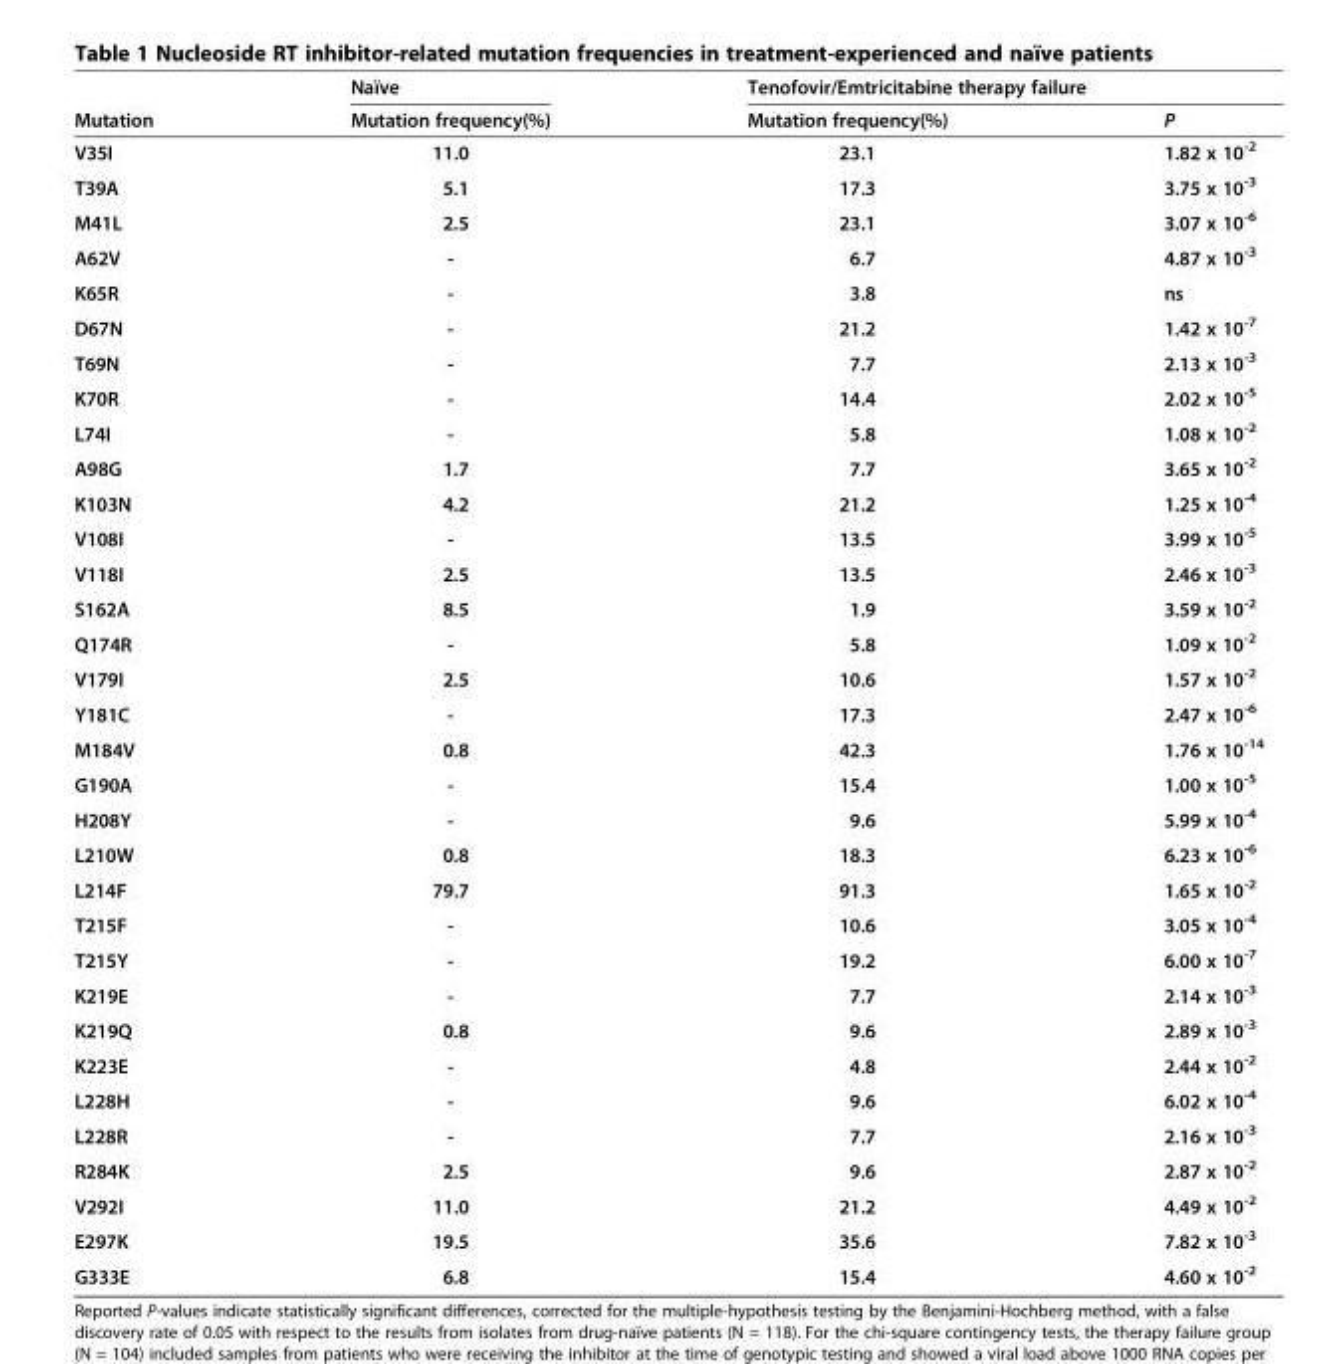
<table><thead><tr><td rowspan="2">Mutation</td><td rowspan="2">Naïve Mutation frequency(%)</td><td colspan="2">Tenofovir/Emtricitabine therapy failure</td></tr><tr><td>Mutation frequency(%)</td><td>P</td></tr></thead><tbody><tr><td>V35I</td><td>11.0</td><td>23.1</td><td>1.82 x 10<sup>-2</sup></td></tr><tr><td>T39A</td><td>5.1</td><td>17.3</td><td>3.75 x 10<sup>-3</sup></td></tr><tr><td>M41L</td><td>2.5</td><td>23.1</td><td>3.07 x 10<sup>-6</sup></td></tr><tr><td>A62V</td><td>-</td><td>6.7</td><td>4.87 x 10<sup>-3</sup></td></tr><tr><td>K65R</td><td>-</td><td>3.8</td><td>ns</td></tr><tr><td>D67N</td><td>-</td><td>21.2</td><td>1.42 x 10<sup>-7</sup></td></tr><tr><td>T69N</td><td>-</td><td>7.7</td><td>2.13 x 10<sup>-3</sup></td></tr><tr><td>K70R</td><td>-</td><td>14.4</td><td>2.02 x 10<sup>-5</sup></td></tr><tr><td>L74I</td><td>-</td><td>5.8</td><td>1.08 x 10<sup>-2</sup></td></tr><tr><td>A98G</td><td>1.7</td><td>7.7</td><td>3.65 x 10<sup>-2</sup></td></tr><tr><td>K103N</td><td>4.2</td><td>21.2</td><td>1.25 x 10<sup>-4</sup></td></tr><tr><td>V108I</td><td>-</td><td>13.5</td><td>3.99 x 10<sup>-5</sup></td></tr><tr><td>V118I</td><td>2.5</td><td>13.5</td><td>2.46 x 10<sup>-3</sup></td></tr><tr><td>S162A</td><td>8.5</td><td>1.9</td><td>3.59 x 10<sup>-2</sup></td></tr><tr><td>Q174R</td><td>-</td><td>5.8</td><td>1.09 x 10<sup>-2</sup></td></tr><tr><td>V179I</td><td>2.5</td><td>10.6</td><td>1.57 x 10<sup>-2</sup></td></tr><tr><td>Y181C</td><td>-</td><td>17.3</td><td>2.47 x 10<sup>-6</sup></td></tr><tr><td>M184V</td><td>0.8</td><td>42.3</td><td>1.76 x 10<sup>-14</sup></td></tr><tr><td>G190A</td><td>-</td><td>15.4</td><td>1.00 x 10<sup>-5</sup></td></tr><tr><td>H208Y</td><td>-</td><td>9.6</td><td>5.99 x 10<sup>-4</sup></td></tr><tr><td>L210W</td><td>0.8</td><td>18.3</td><td>6.23 x 10<sup>-6</sup></td></tr><tr><td>L214F</td><td>79.7</td><td>91.3</td><td>1.65 x 10<sup>-2</sup></td></tr><tr><td>T215F</td><td>-</td><td>10.6</td><td>3.05 x 10<sup>-4</sup></td></tr><tr><td>T215Y</td><td>-</td><td>19.2</td><td>6.00 x 10<sup>-7</sup></td></tr><tr><td>K219E</td><td>-</td><td>7.7</td><td>2.14 x 10<sup>-3</sup></td></tr><tr><td>K219Q</td><td>0.8</td><td>9.6</td><td>2.89 x 10<sup>-3</sup></td></tr><tr><td>K223E</td><td>-</td><td>4.8</td><td>2.44 x 10<sup>-2</sup></td></tr><tr><td>L228H</td><td>-</td><td>9.6</td><td>6.02 x 10<sup>-4</sup></td></tr><tr><td>L228R</td><td>-</td><td>7.7</td><td>2.16 x 10<sup>-3</sup></td></tr><tr><td>R284K</td><td>2.5</td><td>9.6</td><td>2.87 x 10<sup>-2</sup></td></tr><tr><td>V292I</td><td>11.0</td><td>21.2</td><td>4.49 x 10<sup>-2</sup></td></tr><tr><td>E297K</td><td>19.5</td><td>35.6</td><td>7.82 x 10<sup>-3</sup></td></tr><tr><td>G333E</td><td>6.8</td><td>15.4</td><td>4.60 x 10<sup>-2</sup></td></tr></tbody></table>